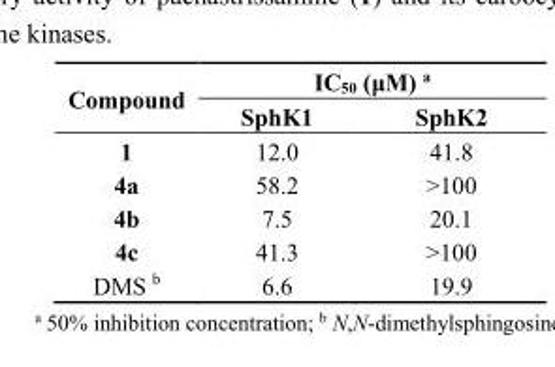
<table><thead><tr><td rowspan="2">Compound</td><td colspan="2">IC<sub>50</sub> (μM) <sup>a</sup></td></tr><tr><td>SphK1</td><td>SphK2</td></tr></thead><tbody><tr><td>1</td><td>12.0</td><td>41.8</td></tr><tr><td>4a</td><td>58.2</td><td>&gt;100</td></tr><tr><td>4b</td><td>7.5</td><td>20.1</td></tr><tr><td>4c</td><td>41.3</td><td>&gt;100</td></tr><tr><td>DMS <sup>b</sup></td><td>6.6</td><td>19.9</td></tr></tbody></table>